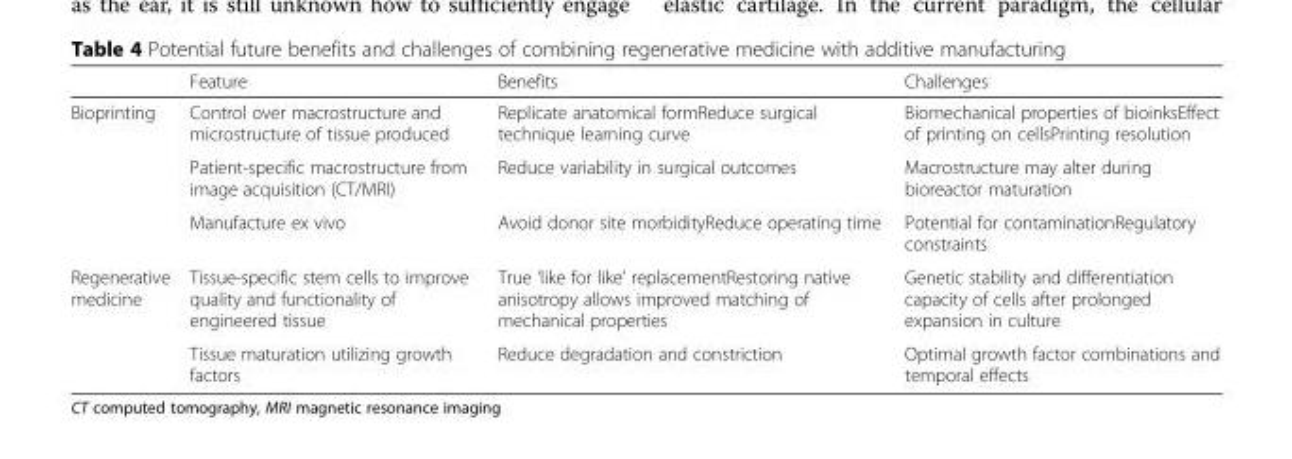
<table><thead><tr><td></td><td>Feature</td><td>Benefits</td><td>Challenges</td></tr></thead><tbody><tr><td rowspan="3">Bioprinting</td><td>Control over macrostructure and microstructure of tissue produced</td><td>Replicate anatomical formReduce surgical technique learning curve</td><td>Biomechanical properties of bioinksEffect of printing on cellsPrinting resolution</td></tr><tr><td>Patient-specific macrostructure from image acquisition (CT/MRI)</td><td>Reduce variability in surgical outcomes</td><td>Macrostructure may alter during bioreactor maturation</td></tr><tr><td>Manufacture ex vivo</td><td>Avoid donor site morbidityReduce operating time</td><td>Potential for contaminationRegulatory constraints</td></tr><tr><td rowspan="2">Regenerative medicine</td><td>Tissue-specific stem cells to improve quality and functionality of engineered tissue</td><td>True ‘like for like’ replacementRestoring native anisotropy allows improved matching of mechanical properties</td><td>Genetic stability and differentiation capacity of cells after prolonged expansion in culture</td></tr><tr><td>Tissue maturation utilizing growth factors</td><td>Reduce degradation and constriction</td><td>Optimal growth factor combinations and temporal effects</td></tr></tbody></table>